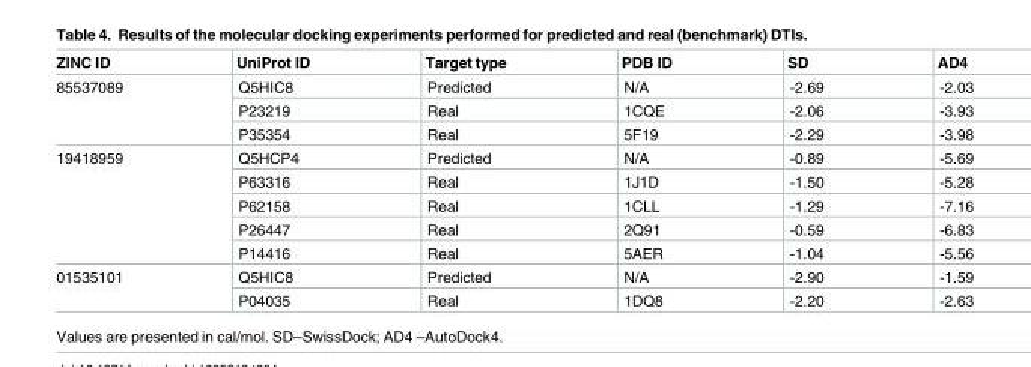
<table><thead><tr><td>ZINC ID</td><td>UniProt ID</td><td>Target type</td><td>PDB ID</td><td>SD</td><td>AD4</td></tr></thead><tbody><tr><td rowspan="3">85537089</td><td>Q5HIC8</td><td>Predicted</td><td>N/A</td><td>-2.69</td><td>-2.03</td></tr><tr><td>P23219</td><td>Real</td><td>1CQE</td><td>-2.06</td><td>-3.93</td></tr><tr><td>P35354</td><td>Real</td><td>5F19</td><td>-2.29</td><td>-3.98</td></tr><tr><td rowspan="5">19418959</td><td>Q5HCP4</td><td>Predicted</td><td>N/A</td><td>-0.89</td><td>-5.69</td></tr><tr><td>P63316</td><td>Real</td><td>1J1D</td><td>-1.50</td><td>-5.28</td></tr><tr><td>P62158</td><td>Real</td><td>1CLL</td><td>-1.29</td><td>-7.16</td></tr><tr><td>P26447</td><td>Real</td><td>2Q91</td><td>-0.59</td><td>-6.83</td></tr><tr><td>P14416</td><td>Real</td><td>5AER</td><td>-1.04</td><td>-5.56</td></tr><tr><td rowspan="2">01535101</td><td>Q5HIC8</td><td>Predicted</td><td>N/A</td><td>-2.90</td><td>-1.59</td></tr><tr><td>P04035</td><td>Real</td><td>1DQ8</td><td>-2.20</td><td>-2.63</td></tr></tbody></table>